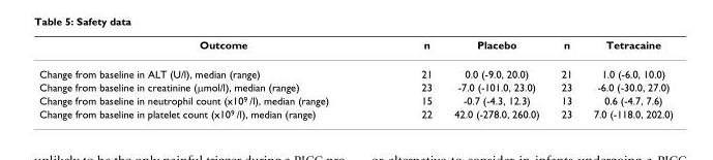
<table><thead><tr><td>Outcome</td><td>n</td><td>Placebo</td><td>n</td><td>Tetracaine</td></tr></thead><tbody><tr><td>Change from baseline in ALT (U/l), median (range)</td><td>21</td><td>0.0 (-9.0, 20.0)</td><td>21</td><td>1.0 (-6.0, 10.0)</td></tr><tr><td>Change from baseline in creatinine (µmol/l), median (range)</td><td>23</td><td>-7.0 (-101.0, 23.0)</td><td>23</td><td>-6.0 (-30.0, 27.0)</td></tr><tr><td>Change from baseline in neutrophil count (x109 /l), median (range)</td><td>15</td><td>-0.7 (-4.3, 12.3)</td><td>13</td><td>0.6 (-4.7, 7.6)</td></tr><tr><td>Change from baseline in platelet count (x109 /l), median (range)</td><td>22</td><td>42.0 (-278.0, 260.0)</td><td>23</td><td>7.0 (-118.0, 202.0)</td></tr></tbody></table>